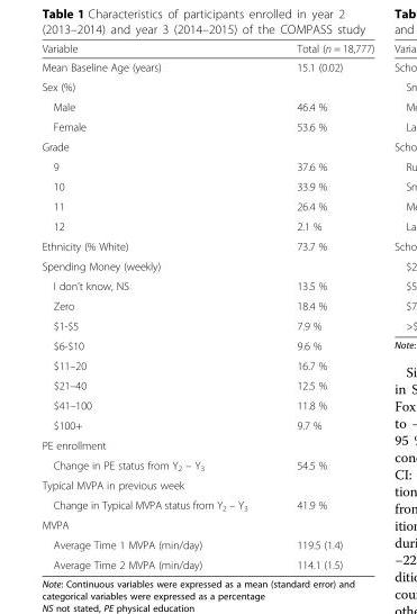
<table><thead><tr><td>Variable</td><td>Total (n = 18,777)</td></tr></thead><tbody><tr><td>Mean Baseline Age (years)</td><td>15.1 (0.02)</td></tr><tr><td colspan="2">Sex (%)</td></tr><tr><td>Male</td><td>46.4 %</td></tr><tr><td>Female</td><td>53.6 %</td></tr><tr><td colspan="2">Grade</td></tr><tr><td>9</td><td>37.6 %</td></tr><tr><td>10</td><td>33.9 %</td></tr><tr><td>11</td><td>26.4 %</td></tr><tr><td>12</td><td>2.1 %</td></tr><tr><td>Ethnicity (% White)</td><td>73.7 %</td></tr><tr><td colspan="2">Spending Money (weekly)</td></tr><tr><td>I don’t know, NS</td><td>13.5 %</td></tr><tr><td>Zero</td><td>18.4 %</td></tr><tr><td>$1-$5</td><td>7.9 %</td></tr><tr><td>$6-$10</td><td>9.6 %</td></tr><tr><td>$11–20</td><td>16.7 %</td></tr><tr><td>$21–40</td><td>12.5 %</td></tr><tr><td>$41–100</td><td>11.8 %</td></tr><tr><td>$100+</td><td>9.7 %</td></tr><tr><td colspan="2">PE enrollment</td></tr><tr><td>Change in PE status from Y<sub>2</sub> – Y<sub>3</sub></td><td>54.5 %</td></tr><tr><td colspan="2">Typical MVPA in previous week</td></tr><tr><td>Change in Typical MVPA status from Y<sub>2</sub> – Y<sub>3</sub></td><td>41.9 %</td></tr><tr><td colspan="2">MVPA</td></tr><tr><td>Average Time 1 MVPA (min/day)</td><td>119.5 (1.4)</td></tr><tr><td>Average Time 2 MVPA (min/day)</td><td>114.1 (1.5)</td></tr></tbody></table>